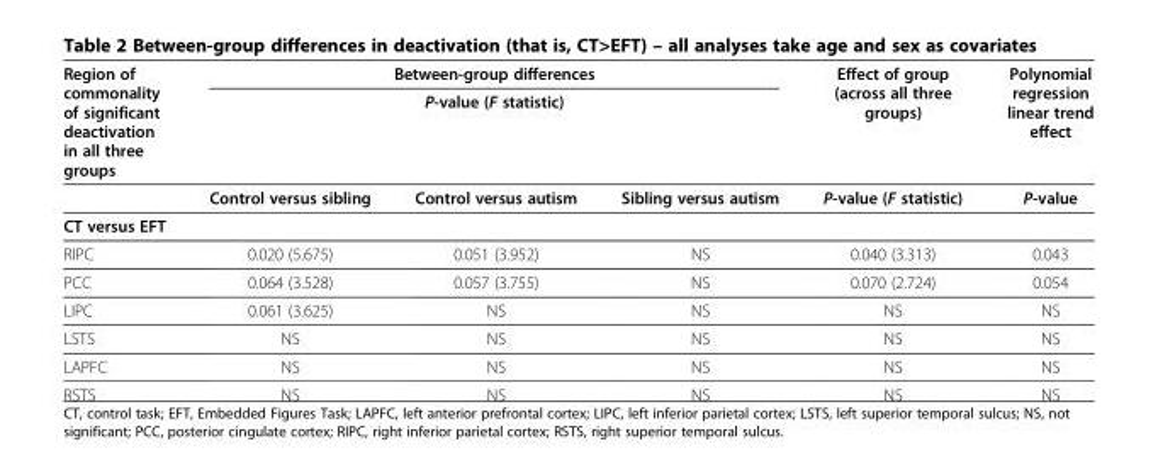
<table><thead><tr><td rowspan="3">Region of commonality of significant deactivation in all three groups</td><td rowspan="2" colspan="3">Between-group differences P-value (F statistic)</td><td rowspan="3">Effect of group (across all three groups) P-value (F statistic)</td><td rowspan="3">Polynomial regression linear trend effect P-value</td></tr><tr></tr><tr><td>Control versus sibling</td><td>Control versus autism</td><td>Sibling versus autism</td></tr></thead><tbody><tr><td colspan="6">CT versus EFT</td></tr><tr><td>RIPC</td><td>0.020 (5.675)</td><td>0.051 (3.952)</td><td>NS</td><td>0.040 (3.313)</td><td>0.043</td></tr><tr><td>PCC</td><td>0.064 (3.528)</td><td>0.057 (3.755)</td><td>NS</td><td>0.070 (2.724)</td><td>0.054</td></tr><tr><td>LIPC</td><td>0.061 (3.625)</td><td>NS</td><td>NS</td><td>NS</td><td>NS</td></tr><tr><td>LSTS</td><td>NS</td><td>NS</td><td>NS</td><td>NS</td><td>NS</td></tr><tr><td>LAPFC</td><td>NS</td><td>NS</td><td>NS</td><td>NS</td><td>NS</td></tr><tr><td>RSTS</td><td>NS</td><td>NS</td><td>NS</td><td>NS</td><td>NS</td></tr></tbody></table>